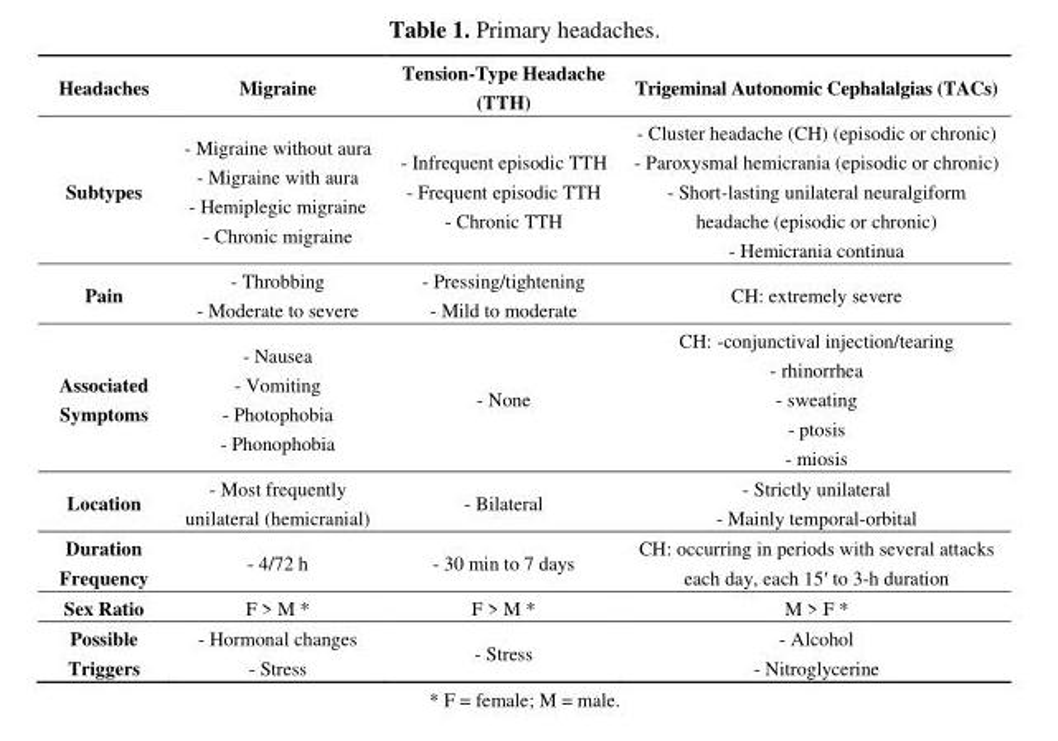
<table><thead><tr><td>Headaches</td><td>Migraine</td><td>Tension-Type Headache (TTH)</td><td>Trigeminal Autonomic Cephalalgias (TACs)</td></tr></thead><tbody><tr><td>Subtypes</td><td>- Migraine without aura - Migraine with aura - Hemiplegic migraine - Chronic migraine</td><td>- Infrequent episodic TTH - Frequent episodic TTH - Chronic TTH</td><td>- Cluster headache (CH) (episodic or chronic) - Paroxysmal hemicrania (episodic or chronic) - Short-lasting unilateral neuralgiform headache (episodic or chronic) - Hemicrania continua</td></tr><tr><td>Pain</td><td>- Throbbing - Moderate to severe</td><td>- Pressing/tightening - Mild to moderate</td><td>CH: extremely severe</td></tr><tr><td>Associated Symptoms</td><td>- Nausea - Vomiting - Photophobia - Phonophobia</td><td>- None</td><td>CH: -conjunctival injection/tearing - rhinorrhea - sweating - ptosis - miosis</td></tr><tr><td>Location</td><td>- Most frequently unilateral (hemicranial)</td><td>- Bilateral</td><td>- Strictly unilateral - Mainly temporal-orbital</td></tr><tr><td>Duration Frequency</td><td>- 4/72 h</td><td>- 30 min to 7 days</td><td>CH: occurring in periods with several attacks each day, each 15′ to 3-h duration</td></tr><tr><td>Sex Ratio</td><td>F &gt; M *</td><td>F &gt; M *</td><td>M &gt; F *</td></tr><tr><td>Possible Triggers</td><td>- Hormonal changes - Stress</td><td>- Stress</td><td>- Alcohol - Nitroglycerine</td></tr></tbody></table>